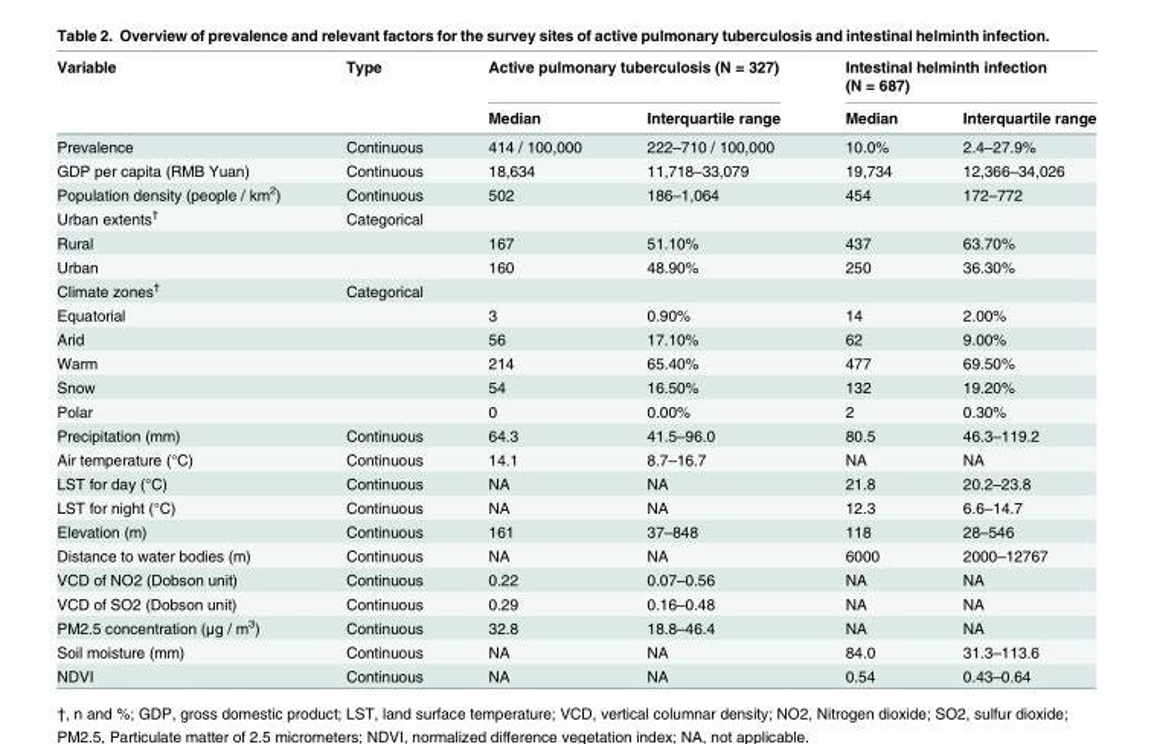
<table><thead><tr><td rowspan="2">Variable</td><td rowspan="2">Type</td><td colspan="2">Active pulmonary tuberculosis (N = 327)</td><td colspan="2">Intestinal helminth infection (N = 687)</td></tr><tr><td>Median</td><td>Interquartile range</td><td>Median</td><td>Interquartile range</td></tr></thead><tbody><tr><td>Prevalence</td><td>Continuous</td><td>414 / 100,000</td><td>222–710 / 100,000</td><td>10.0%</td><td>2.4–27.9%</td></tr><tr><td>GDP per capita (RMB Yuan)</td><td>Continuous</td><td>18,634</td><td>11,718–33,079</td><td>19,734</td><td>12,366–34,026</td></tr><tr><td>Population density (people / km<sup>2</sup>)</td><td>Continuous</td><td>502</td><td>186–1,064</td><td>454</td><td>172–772</td></tr><tr><td>Urban extents<sup>†</sup></td><td>Categorical</td><td></td><td></td><td></td><td></td></tr><tr><td>Rural</td><td></td><td>167</td><td>51.10%</td><td>437</td><td>63.70%</td></tr><tr><td>Urban</td><td></td><td>160</td><td>48.90%</td><td>250</td><td>36.30%</td></tr><tr><td>Climate zones<sup>†</sup></td><td>Categorical</td><td></td><td></td><td></td><td></td></tr><tr><td>Equatorial</td><td></td><td>3</td><td>0.90%</td><td>14</td><td>2.00%</td></tr><tr><td>Arid</td><td></td><td>56</td><td>17.10%</td><td>62</td><td>9.00%</td></tr><tr><td>Warm</td><td></td><td>214</td><td>65.40%</td><td>477</td><td>69.50%</td></tr><tr><td>Snow</td><td></td><td>54</td><td>16.50%</td><td>132</td><td>19.20%</td></tr><tr><td>Polar</td><td></td><td>0</td><td>0.00%</td><td>2</td><td>0.30%</td></tr><tr><td>Precipitation (mm)</td><td>Continuous</td><td>64.3</td><td>41.5–96.0</td><td>80.5</td><td>46.3–119.2</td></tr><tr><td>Air temperature (°C)</td><td>Continuous</td><td>14.1</td><td>8.7–16.7</td><td>NA</td><td>NA</td></tr><tr><td>LST for day (°C)</td><td>Continuous</td><td>NA</td><td>NA</td><td>21.8</td><td>20.2–23.8</td></tr><tr><td>LST for night (°C)</td><td>Continuous</td><td>NA</td><td>NA</td><td>12.3</td><td>6.6–14.7</td></tr><tr><td>Elevation (m)</td><td>Continuous</td><td>161</td><td>37–848</td><td>118</td><td>28–546</td></tr><tr><td>Distance to water bodies (m)</td><td>Continuous</td><td>NA</td><td>NA</td><td>6000</td><td>2000–12767</td></tr><tr><td>VCD of NO2 (Dobson unit)</td><td>Continuous</td><td>0.22</td><td>0.07–0.56</td><td>NA</td><td>NA</td></tr><tr><td>VCD of SO2 (Dobson unit)</td><td>Continuous</td><td>0.29</td><td>0.16–0.48</td><td>NA</td><td>NA</td></tr><tr><td>PM2.5 concentration (μg / m<sup>3</sup>)</td><td>Continuous</td><td>32.8</td><td>18.8–46.4</td><td>NA</td><td>NA</td></tr><tr><td>Soil moisture (mm)</td><td>Continuous</td><td>NA</td><td>NA</td><td>84.0</td><td>31.3–113.6</td></tr><tr><td>NDVI</td><td>Continuous</td><td>NA</td><td>NA</td><td>0.54</td><td>0.43–0.64</td></tr></tbody></table>